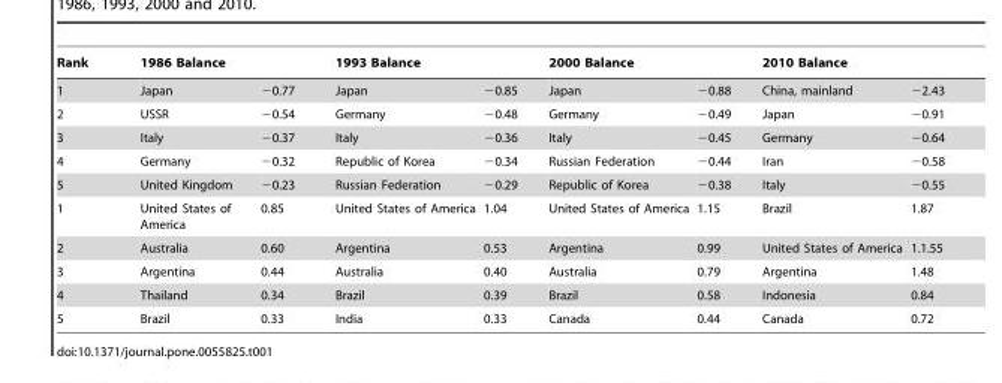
<table><thead><tr><td rowspan="2">Rank 1</td><td colspan="2">1986 Balance</td><td colspan="2">1993 Balance</td><td colspan="2">2000 Balance</td><td colspan="2">2010 Balance</td></tr><tr><td>Japan</td><td>−0.77</td><td>Japan</td><td>−0.85</td><td>Japan</td><td>−0.88</td><td>China, mainland</td><td>−2.43</td></tr></thead><tbody><tr><td>2</td><td>USSR</td><td>−0.54</td><td>Germany</td><td>−0.48</td><td>Germany</td><td>−0.49</td><td>Japan</td><td>−0.91</td></tr><tr><td>3</td><td>Italy</td><td>−0.37</td><td>Italy</td><td>−0.36</td><td>Italy</td><td>−0.45</td><td>Germany</td><td>−0.64</td></tr><tr><td>4</td><td>Germany</td><td>−0.32</td><td>Republic of Korea</td><td>−0.34</td><td>Russian Federation</td><td>−0.44</td><td>Iran</td><td>−0.58</td></tr><tr><td>5</td><td>United Kingdom</td><td>−0.23</td><td>Russian Federation</td><td>−0.29</td><td>Republic of Korea</td><td>−0.38</td><td>Italy</td><td>−0.55</td></tr><tr><td>1</td><td>United States of America</td><td>0.85</td><td>United States of America</td><td>1.04</td><td>United States of America</td><td>1.15</td><td>Brazil</td><td>1.87</td></tr><tr><td>2</td><td>Australia</td><td>0.60</td><td>Argentina</td><td>0.53</td><td>Argentina</td><td>0.99</td><td>United States of America</td><td>1.1.55</td></tr><tr><td>3</td><td>Argentina</td><td>0.44</td><td>Australia</td><td>0.40</td><td>Australia</td><td>0.79</td><td>Argentina</td><td>1.48</td></tr><tr><td>4</td><td>Thailand</td><td>0.34</td><td>Brazil</td><td>0.39</td><td>Brazil</td><td>0.58</td><td>Indonesia</td><td>0.84</td></tr><tr><td>5</td><td>Brazil</td><td>0.33</td><td>India</td><td>0.33</td><td>Canada</td><td>0.44</td><td>Canada</td><td>0.72</td></tr></tbody></table>